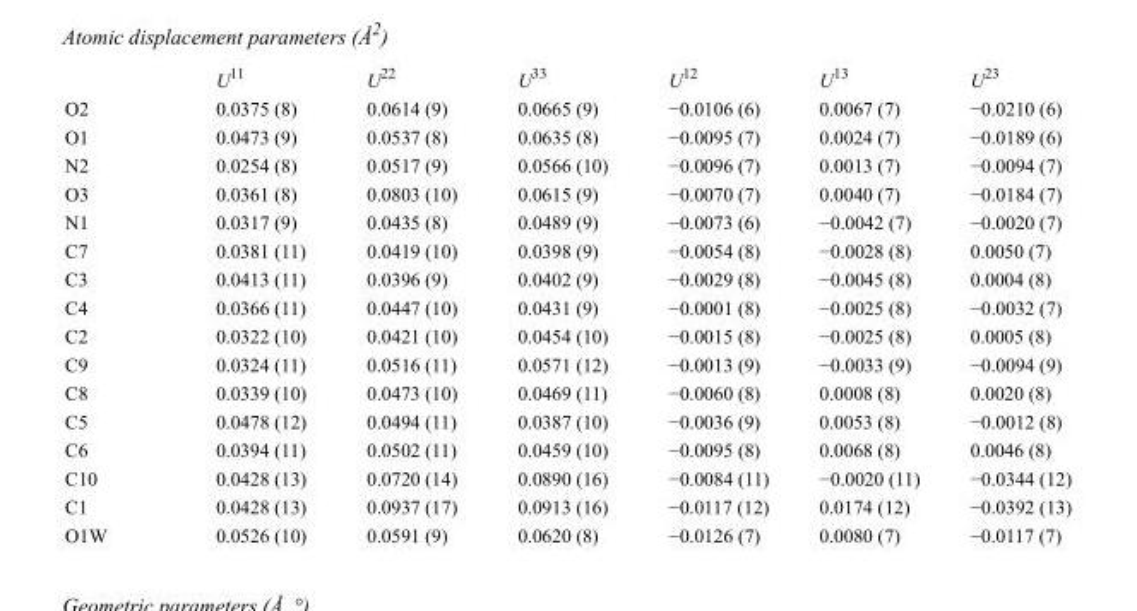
<table><thead><tr><td></td><td>U<sup>11</sup></td><td>U<sup>22</sup></td><td>U<sup>33</sup></td><td>U<sup>12</sup></td><td>U<sup>13</sup></td><td>U<sup>23</sup></td></tr></thead><tbody><tr><td>O2</td><td>0.0375 (8)</td><td>0.0614 (9)</td><td>0.0665 (9)</td><td>−0.0106 (6)</td><td>0.0067 (7)</td><td>−0.0210 (6)</td></tr><tr><td>O1</td><td>0.0473 (9)</td><td>0.0537 (8)</td><td>0.0635 (8)</td><td>−0.0095 (7)</td><td>0.0024 (7)</td><td>−0.0189 (6)</td></tr><tr><td>N2</td><td>0.0254 (8)</td><td>0.0517 (9)</td><td>0.0566 (10)</td><td>−0.0096 (7)</td><td>0.0013 (7)</td><td>−0.0094 (7)</td></tr><tr><td>O3</td><td>0.0361 (8)</td><td>0.0803 (10)</td><td>0.0615 (9)</td><td>−0.0070 (7)</td><td>0.0040 (7)</td><td>−0.0184 (7)</td></tr><tr><td>N1</td><td>0.0317 (9)</td><td>0.0435 (8)</td><td>0.0489 (9)</td><td>−0.0073 (6)</td><td>−0.0042 (7)</td><td>−0.0020 (7)</td></tr><tr><td>C7</td><td>0.0381 (11)</td><td>0.0419 (10)</td><td>0.0398 (9)</td><td>−0.0054 (8)</td><td>−0.0028 (8)</td><td>0.0050 (7)</td></tr><tr><td>C3</td><td>0.0413 (11)</td><td>0.0396 (9)</td><td>0.0402 (9)</td><td>−0.0029 (8)</td><td>−0.0045 (8)</td><td>0.0004 (8)</td></tr><tr><td>C4</td><td>0.0366 (11)</td><td>0.0447 (10)</td><td>0.0431 (9)</td><td>−0.0001 (8)</td><td>−0.0025 (8)</td><td>−0.0032 (7)</td></tr><tr><td>C2</td><td>0.0322 (10)</td><td>0.0421 (10)</td><td>0.0454 (10)</td><td>−0.0015 (8)</td><td>−0.0025 (8)</td><td>0.0005 (8)</td></tr><tr><td>C9</td><td>0.0324 (11)</td><td>0.0516 (11)</td><td>0.0571 (12)</td><td>−0.0013 (9)</td><td>−0.0033 (9)</td><td>−0.0094 (9)</td></tr><tr><td>C8</td><td>0.0339 (10)</td><td>0.0473 (10)</td><td>0.0469 (11)</td><td>−0.0060 (8)</td><td>0.0008 (8)</td><td>0.0020 (8)</td></tr><tr><td>C5</td><td>0.0478 (12)</td><td>0.0494 (11)</td><td>0.0387 (10)</td><td>−0.0036 (9)</td><td>0.0053 (8)</td><td>−0.0012 (8)</td></tr><tr><td>C6</td><td>0.0394 (11)</td><td>0.0502 (11)</td><td>0.0459 (10)</td><td>−0.0095 (8)</td><td>0.0068 (8)</td><td>0.0046 (8)</td></tr><tr><td>C10</td><td>0.0428 (13)</td><td>0.0720 (14)</td><td>0.0890 (16)</td><td>−0.0084 (11)</td><td>−0.0020 (11)</td><td>−0.0344 (12)</td></tr><tr><td>C1</td><td>0.0428 (13)</td><td>0.0937 (17)</td><td>0.0913 (16)</td><td>−0.0117 (12)</td><td>0.0174 (12)</td><td>−0.0392 (13)</td></tr><tr><td>O1W</td><td>0.0526 (10)</td><td>0.0591 (9)</td><td>0.0620 (8)</td><td>−0.0126 (7)</td><td>0.0080 (7)</td><td>−0.0117 (7)</td></tr></tbody></table>